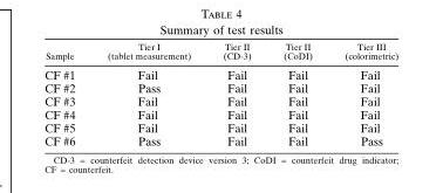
<table><thead><tr><td>Sample</td><td>Tier I (tablet measurement)</td><td>Tier II (CD-3)</td><td>Tier II (CoDI)</td><td>Tier III (colorimetric)</td></tr></thead><tbody><tr><td>CF #1</td><td>Fail</td><td>Fail</td><td>Fail</td><td>Fail</td></tr><tr><td>CF #2</td><td>Pass</td><td>Fail</td><td>Fail</td><td>Fail</td></tr><tr><td>CF #3</td><td>Fail</td><td>Fail</td><td>Fail</td><td>Fail</td></tr><tr><td>CF #4</td><td>Fail</td><td>Fail</td><td>Fail</td><td>Fail</td></tr><tr><td>CF #5</td><td>Fail</td><td>Fail</td><td>Fail</td><td>Fail</td></tr><tr><td>CF #6</td><td>Pass</td><td>Fail</td><td>Fail</td><td>Pass</td></tr></tbody></table>